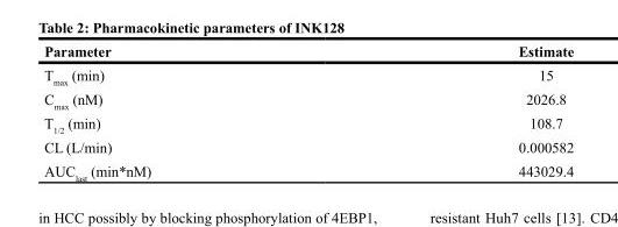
<table><thead><tr><td>Parameter</td><td>Estimate</td></tr></thead><tbody><tr><td>T<sub>max</sub> (min)</td><td>15</td></tr><tr><td>C<sub>max</sub> (nM)</td><td>2026.8</td></tr><tr><td>T<sub>1/2</sub> (min)</td><td>108.7</td></tr><tr><td>CL (L/min)</td><td>0.000582</td></tr><tr><td>AUC<sub>last</sub> (min*nM)</td><td>443029.4</td></tr></tbody></table>